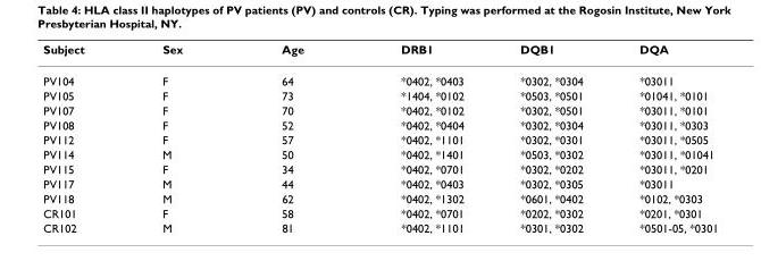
<table><thead><tr><td>Subject</td><td>Sex</td><td>Age</td><td>DRB1</td><td>DQB1</td><td>DQA</td></tr></thead><tbody><tr><td>PV104</td><td>F</td><td>64</td><td>*0402, *0403</td><td>*0302, *0304</td><td>*03011</td></tr><tr><td>PV105</td><td>F</td><td>73</td><td>*1404, *0102</td><td>*0503, *0501</td><td>*01041, *0101</td></tr><tr><td>PV107</td><td>F</td><td>70</td><td>*0402, *0102</td><td>*0302, *0501</td><td>*03011, *0101</td></tr><tr><td>PV108</td><td>F</td><td>52</td><td>*0402, *0404</td><td>*0302, *0304</td><td>*03011, *0303</td></tr><tr><td>PV112</td><td>F</td><td>57</td><td>*0402, *1101</td><td>*0302, *0301</td><td>*03011, *0505</td></tr><tr><td>PV114</td><td>M</td><td>50</td><td>*0402, *1401</td><td>*0503, *0302</td><td>*03011, *01041</td></tr><tr><td>PV115</td><td>F</td><td>34</td><td>*0402, *0701</td><td>*0302, *0202</td><td>*03011, *0201</td></tr><tr><td>PV117</td><td>M</td><td>44</td><td>*0402, *0403</td><td>*0302, *0305</td><td>*03011</td></tr><tr><td>PV118</td><td>M</td><td>62</td><td>*0402, *1302</td><td>*0601, *0402</td><td>*0102, *0303</td></tr><tr><td>CR101</td><td>F</td><td>58</td><td>*0402, *0701</td><td>*0202, *0302</td><td>*0201, *0301</td></tr><tr><td>CR102</td><td>M</td><td>81</td><td>*0402, *1101</td><td>*0301, *0302</td><td>*0501-05, *0301</td></tr></tbody></table>